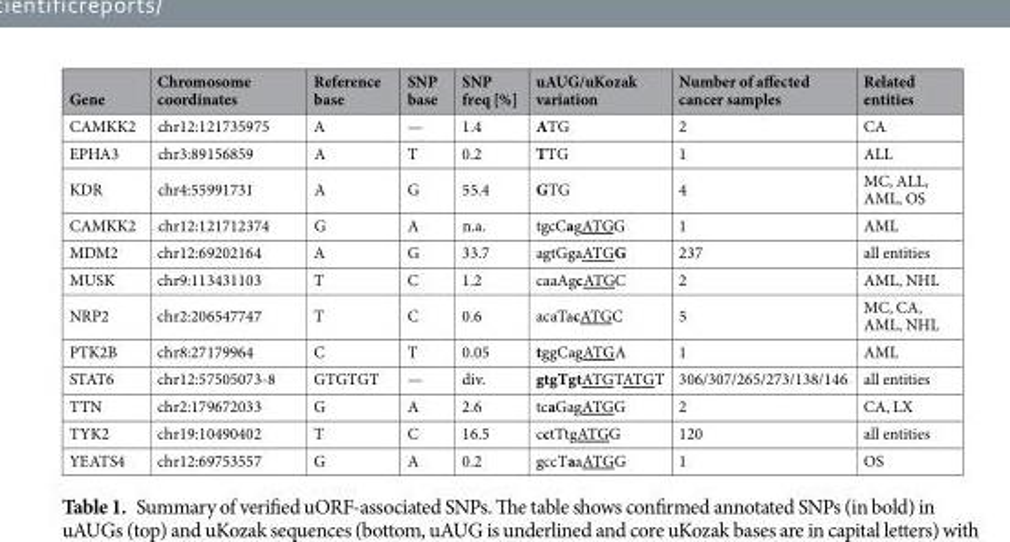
<table><thead><tr><td>Gene</td><td>Chromosome coordinates</td><td>Reference base</td><td>SNP base</td><td>SNP freq [%]</td><td>uAUG/uKozak variation</td><td>Number of affected cancer samples</td><td>Related entities</td></tr></thead><tbody><tr><td>CAMKK2</td><td>chr12:121735975</td><td>A</td><td>—</td><td>1.4</td><td>ATG</td><td>2</td><td>CA</td></tr><tr><td>EPHA3</td><td>chr3:89156859</td><td>A</td><td>T</td><td>0.2</td><td>TTG</td><td>1</td><td>ALL</td></tr><tr><td>KDR</td><td>chr4:55991731</td><td>A</td><td>G</td><td>55.4</td><td>GTG</td><td>4</td><td>MC, ALL, AML, OS</td></tr><tr><td>CAMKK2</td><td>chr12:121712374</td><td>G</td><td>A</td><td>n.a.</td><td>tgcCagATGG</td><td>1</td><td>AML</td></tr><tr><td>MDM2</td><td>chr12:69202164</td><td>A</td><td>G</td><td>33.7</td><td>agtGgaATGG</td><td>237</td><td>all entities</td></tr><tr><td>MUSK</td><td>chr9:113431103</td><td>T</td><td>C</td><td>1.2</td><td>caaAgcATGC</td><td>2</td><td>AML, NHL</td></tr><tr><td>NRP2</td><td>chr2:206547747</td><td>T</td><td>C</td><td>0.6</td><td>acaTacATGC</td><td>5</td><td>MC, CA, AML, NHL</td></tr><tr><td>PTK2B</td><td>chr8:27179964</td><td>C</td><td>T</td><td>0.05</td><td>tggCagATGA</td><td>1</td><td>AML</td></tr><tr><td>STAT6</td><td>chr12:57505073-8</td><td>GTGTGT</td><td>—</td><td>div.</td><td>gtgTgtATGTATGT</td><td>306/307/265/273/138/146</td><td>all entities</td></tr><tr><td>TTN</td><td>chr2:179672033</td><td>G</td><td>A</td><td>2.6</td><td>tcaGagATGG</td><td>2</td><td>CA, LX</td></tr><tr><td>TYK2</td><td>chr19:10490402</td><td>T</td><td>C</td><td>16.5</td><td>cctTtgATGG</td><td>120</td><td>all entities</td></tr><tr><td>YEATS4</td><td>chr12:69753557</td><td>G</td><td>A</td><td>0.2</td><td>gccTaaATGG</td><td>1</td><td>OS</td></tr></tbody></table>